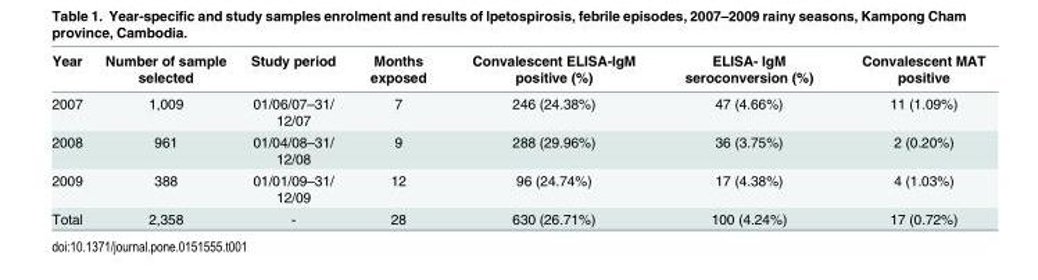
<table><thead><tr><td>Year</td><td>Number of sample selected</td><td>Study period</td><td>Months exposed</td><td>Convalescent ELISA-IgM positive (%)</td><td>ELISA- IgM seroconversion (%)</td><td>Convalescent MAT positive</td></tr></thead><tbody><tr><td>2007</td><td>1,009</td><td>01/06/07–31/ 12/07</td><td>7</td><td>246 (24.38%)</td><td>47 (4.66%)</td><td>11 (1.09%)</td></tr><tr><td>2008</td><td>961</td><td>01/04/08–31/ 12/08</td><td>9</td><td>288 (29.96%)</td><td>36 (3.75%)</td><td>2 (0.20%)</td></tr><tr><td>2009</td><td>388</td><td>01/01/09–31/ 12/09</td><td>12</td><td>96 (24.74%)</td><td>17 (4.38%)</td><td>4 (1.03%)</td></tr><tr><td>Total</td><td>2,358</td><td>-</td><td>28</td><td>630 (26.71%)</td><td>100 (4.24%)</td><td>17 (0.72%)</td></tr></tbody></table>